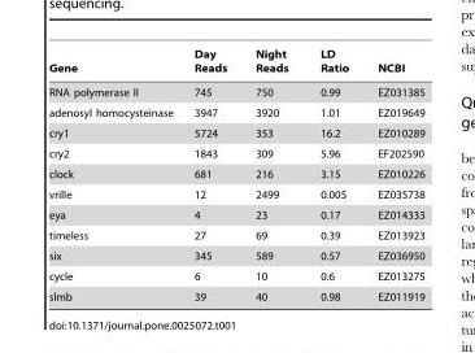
<table><thead><tr><td>Gene</td><td>Day Reads</td><td>Night Reads</td><td>LD Ratio</td><td>NCBI</td></tr></thead><tbody><tr><td>RNA polymerase II</td><td>745</td><td>750</td><td>0.99</td><td>EZ031385</td></tr><tr><td>adenosyl homocysteinase</td><td>3947</td><td>3920</td><td>1.01</td><td>EZ019649</td></tr><tr><td>cry1</td><td>5724</td><td>353</td><td>16.2</td><td>EZ010289</td></tr><tr><td>cry2</td><td>1843</td><td>309</td><td>5.96</td><td>EF202590</td></tr><tr><td>clock</td><td>681</td><td>216</td><td>3.15</td><td>EZ010226</td></tr><tr><td>vrille</td><td>12</td><td>2499</td><td>0.005</td><td>EZ035738</td></tr><tr><td>eya</td><td>4</td><td>23</td><td>0.17</td><td>EZ014333</td></tr><tr><td>timeless</td><td>27</td><td>69</td><td>0.39</td><td>EZ013923</td></tr><tr><td>six</td><td>345</td><td>589</td><td>0.57</td><td>EZ036950</td></tr><tr><td>cycle</td><td>6</td><td>10</td><td>0.6</td><td>EZ013275</td></tr><tr><td>slmb</td><td>39</td><td>40</td><td>0.98</td><td>EZ011919</td></tr></tbody></table>